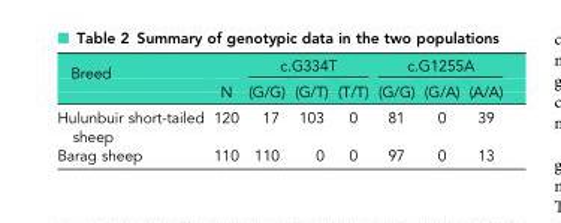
<table><thead><tr><td rowspan="2">Breed</td><td rowspan="2">N</td><td colspan="3">c.G334T</td><td colspan="3">c.G1255A</td></tr><tr><td>(G/G)</td><td>(G/T)</td><td>(T/T)</td><td>(G/G)</td><td>(G/A)</td><td>(A/A)</td></tr></thead><tbody><tr><td>Hulunbuir short-tailed sheep</td><td>120</td><td>17</td><td>103</td><td>0</td><td>81</td><td>0</td><td>39</td></tr><tr><td>Barag sheep</td><td>110</td><td>110</td><td>0</td><td>0</td><td>97</td><td>0</td><td>13</td></tr></tbody></table>